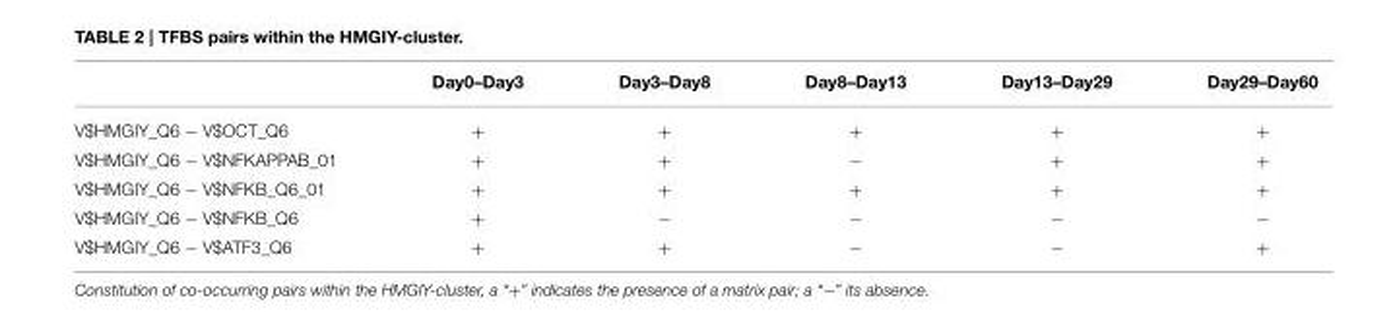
<table><thead><tr><td></td><td>Day0–Day3</td><td>Day3–Day8</td><td>Day8–Day13</td><td>Day13–Day29</td><td>Day29–Day60</td></tr></thead><tbody><tr><td>V$HMGIY_Q6 − V$OCT_Q6</td><td>+</td><td>+</td><td>+</td><td>+</td><td>+</td></tr><tr><td>V$HMGIY_Q6 − V$NFKAPPAB_01</td><td>+</td><td>+</td><td>−</td><td>+</td><td>+</td></tr><tr><td>V$HMGIY_Q6 − V$NFKB_Q6_01</td><td>+</td><td>+</td><td>+</td><td>+</td><td>+</td></tr><tr><td>V$HMGIY_Q6 − V$NFKB_Q6</td><td>+</td><td>−</td><td>−</td><td>−</td><td>−</td></tr><tr><td>V$HMGIY_Q6 − V$ATF3_Q6</td><td>+</td><td>+</td><td>−</td><td>−</td><td>+</td></tr></tbody></table>